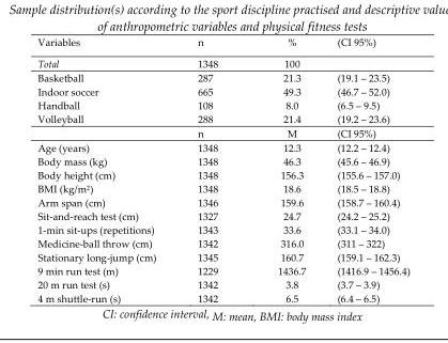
<table><thead><tr><td>Variables</td><td>n</td><td>%</td><td>(CI 95%)</td></tr></thead><tbody><tr><td>Total</td><td>1348</td><td>100</td><td></td></tr><tr><td>Basketball</td><td>287</td><td>21.3</td><td>(19.1 – 23.5)</td></tr><tr><td>Indoor soccer</td><td>665</td><td>49.3</td><td>(46.7 – 52.0)</td></tr><tr><td>Handball</td><td>108</td><td>8.0</td><td>(6.5 – 9.5)</td></tr><tr><td rowspan="2">Volleyball</td><td>288</td><td>21.4</td><td>(19.2 – 23.6)</td></tr><tr><td>n</td><td>M</td><td>(CI 95%)</td></tr><tr><td>Age (years)</td><td>1348</td><td>12.3</td><td>(12.2 – 12.4)</td></tr><tr><td>Body mass (kg)</td><td>1348</td><td>46.3</td><td>(45.6 – 46.9)</td></tr><tr><td>Body height (cm)</td><td>1348</td><td>156.3</td><td>(155.6 – 157.0)</td></tr><tr><td>BMI (kg/m²)</td><td>1348</td><td>18.6</td><td>(18.5 – 18.8)</td></tr><tr><td>Arm span (cm)</td><td>1346</td><td>159.6</td><td>(158.7 – 160.4)</td></tr><tr><td>Sit-and-reach test (cm)</td><td>1327</td><td>24.7</td><td>(24.2 – 25.2)</td></tr><tr><td>1-min sit-ups (repetitions)</td><td>1343</td><td>33.6</td><td>(33.1 – 34.0)</td></tr><tr><td>Medicine-ball throw (cm)</td><td>1342</td><td>316.0</td><td>(311 – 322)</td></tr><tr><td>Stationary long-jump (cm)</td><td>1345</td><td>160.7</td><td>(159.1 – 162.3)</td></tr><tr><td>9 min run test (m)</td><td>1229</td><td>1436.7</td><td>(1416.9 – 1456.4)</td></tr><tr><td>20 m run test (s)</td><td>1342</td><td>3.8</td><td>(3.7 – 3.9)</td></tr><tr><td>4 m shuttle-run (s)</td><td>1342</td><td>6.5</td><td>(6.4 – 6.5)</td></tr></tbody></table>